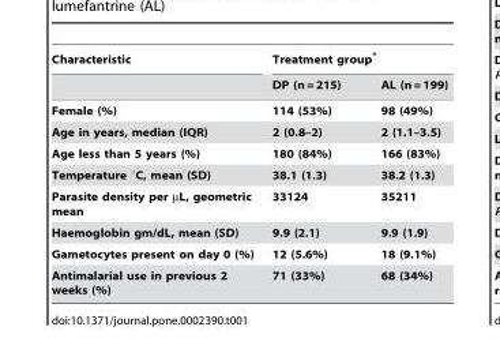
<table><thead><tr><td rowspan="2">Characteristic</td><td colspan="2">Treatment group*</td></tr><tr><td>DP (n = 215)</td><td>AL (n = 199)</td></tr></thead><tbody><tr><td>Female (%)</td><td>114 (53%)</td><td>98 (49%)</td></tr><tr><td>Age in years, median (IQR)</td><td>2 (0.8–2)</td><td>2 (1.1–3.5)</td></tr><tr><td>Age less than 5 years (%)</td><td>180 (84%)</td><td>166 (83%)</td></tr><tr><td>Temperature °C, mean (SD)</td><td>38.1 (1.3)</td><td>38.2 (1.3)</td></tr><tr><td>Parasite density per µL, geometric mean</td><td>33124</td><td>35211</td></tr><tr><td>Haemoglobin gm/dL, mean (SD)</td><td>9.9 (2.1)</td><td>9.9 (1.9)</td></tr><tr><td>Gametocytes present on day 0 (%)</td><td>12 (5.6%)</td><td>18 (9.1%)</td></tr><tr><td>Antimalarial use in previous 2 weeks (%)</td><td>71 (33%)</td><td>68 (34%)</td></tr></tbody></table>